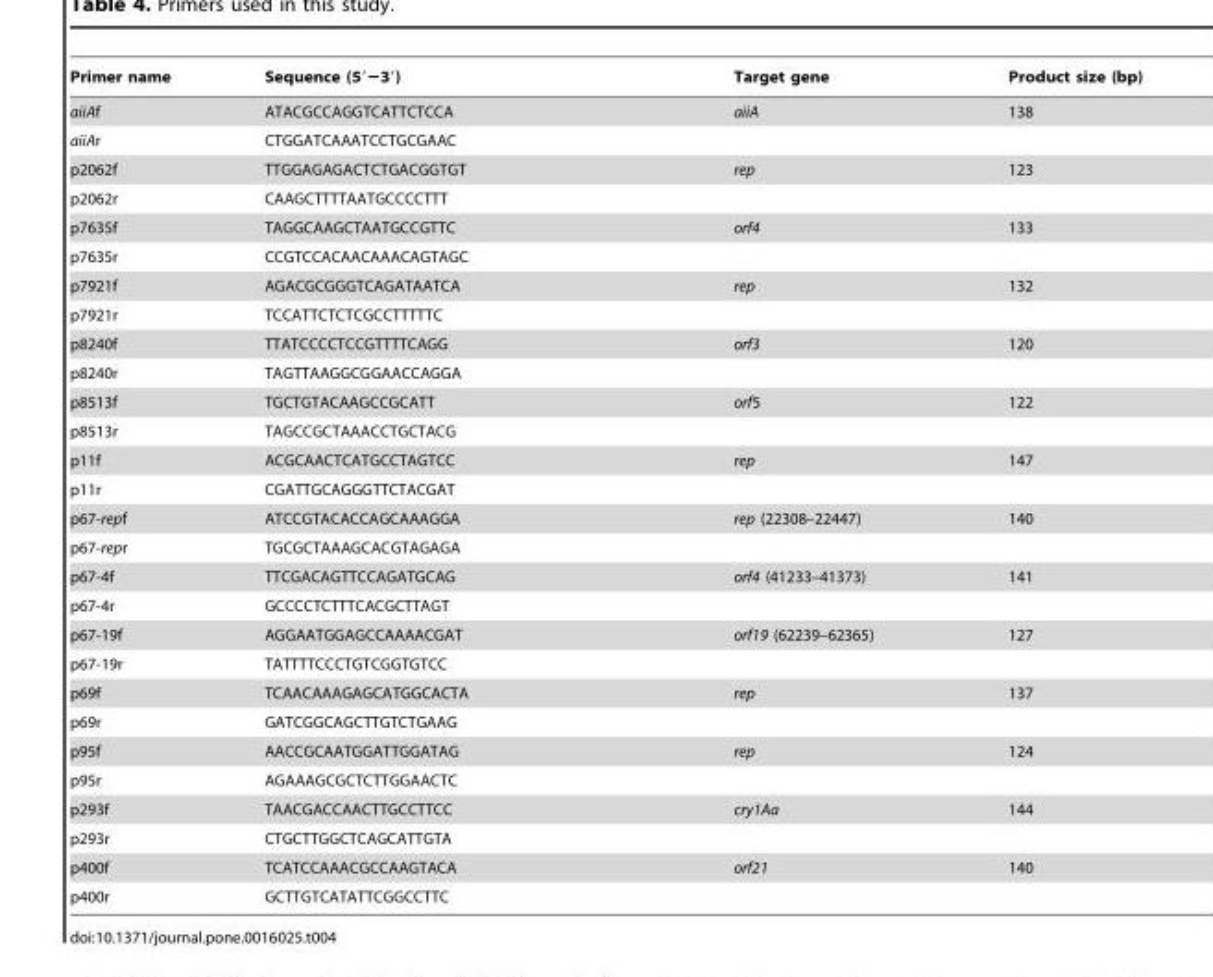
<table><thead><tr><td>Primer name</td><td>Sequence (592 239)</td><td>Target gene</td><td>Product size (bp)</td></tr></thead><tbody><tr><td>aiiAf</td><td>ATACGCCAGGTCATTCTCCA</td><td>aiiA</td><td>138</td></tr><tr><td>aiiAr</td><td>CTGGATCAAATCCTGCGAAC</td><td></td><td></td></tr><tr><td>p2062f</td><td>TTGGAGAGACTCTGACGGTGT</td><td>rep</td><td>123</td></tr><tr><td>p2062r</td><td>CAAGCTTTTAATGCCCCTTT</td><td></td><td></td></tr><tr><td>p7635f</td><td>TAGGCAAGCTAATGCCGTTC</td><td>orf4</td><td>133</td></tr><tr><td>p7635r</td><td>CCGTCCACAACAAACAGTAGC</td><td></td><td></td></tr><tr><td>p7921f</td><td>AGACGCGGGTCAGATAATCA</td><td>rep</td><td>132</td></tr><tr><td>p7921r</td><td>TCCATTCTCTCGCCTTTTTC</td><td></td><td></td></tr><tr><td>p8240f</td><td>TTATCCCCTCCGTTTTCAGG</td><td>orf3</td><td>120</td></tr><tr><td>p8240r</td><td>TAGTTAAGGCGGAACCAGGA</td><td></td><td></td></tr><tr><td>p8513f</td><td>TGCTGTACAAGCCGCATT</td><td>orf5</td><td>122</td></tr><tr><td>p8513r</td><td>TAGCCGCTAAACCTGCTACG</td><td></td><td></td></tr><tr><td>p11f</td><td>ACGCAACTCATGCCTAGTCC</td><td>rep</td><td>147</td></tr><tr><td>p11r</td><td>CGATTGCAGGGTTCTACGAT</td><td></td><td></td></tr><tr><td>p67-repf</td><td>ATCCGTACACCAGCAAAGGA</td><td>rep (22308–22447)</td><td>140</td></tr><tr><td>p67-repr</td><td>TGCGCTAAAGCACGTAGAGA</td><td></td><td></td></tr><tr><td>p67-4f</td><td>TTCGACAGTTCCAGATGCAG</td><td>orf4 (41233–41373)</td><td>141</td></tr><tr><td>p67-4r</td><td>GCCCCTCTTTCACGCTTAGT</td><td></td><td></td></tr><tr><td>p67-19f</td><td>AGGAATGGAGCCAAAACGAT</td><td>orf19 (62239–62365)</td><td>127</td></tr><tr><td>p67-19r</td><td>TATTTTCCCTGTCGGTGTCC</td><td></td><td></td></tr><tr><td>p69f</td><td>TCAACAAAGAGCATGGCACTA</td><td>rep</td><td>137</td></tr><tr><td>p69r</td><td>GATCGGCAGCTTGTCTGAAG</td><td></td><td></td></tr><tr><td>p95f</td><td>AACCGCAATGGATTGGATAG</td><td>rep</td><td>124</td></tr><tr><td>p95r</td><td>AGAAAGCGCTCTTGGAACTC</td><td></td><td></td></tr><tr><td>p293f</td><td>TAACGACCAACTTGCCTTCC</td><td>cry1Aa</td><td>144</td></tr><tr><td>p293r</td><td>CTGCTTGGCTCAGCATTGTA</td><td></td><td></td></tr><tr><td>p400f</td><td>TCATCCAAACGCCAAGTACA</td><td>orf21</td><td>140</td></tr><tr><td>p400r</td><td>GCTTGTCATATTCGGCCTTC</td><td></td><td></td></tr></tbody></table>